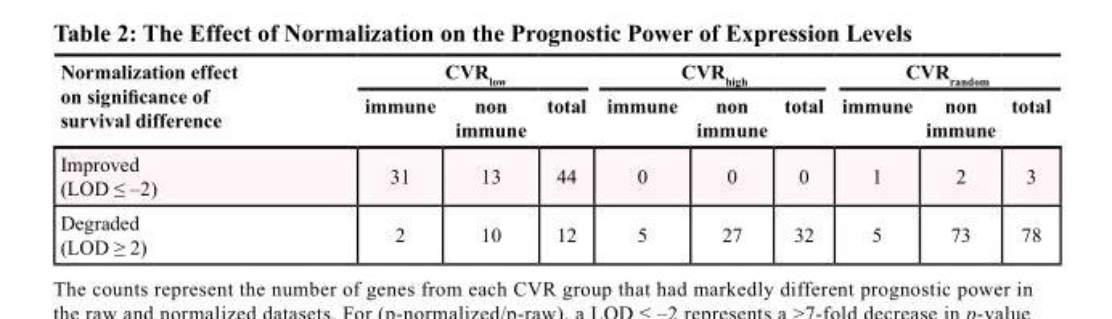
<table><thead><tr><td rowspan="2">Normalization effect on significance of survival difference</td><td colspan="3">CVR<sub>low</sub></td><td colspan="3">CVR<sub>high</sub></td><td colspan="3">CVR<sub>random</sub></td></tr><tr><td>immune</td><td>non immune</td><td>total</td><td>immune</td><td>non immune</td><td>total</td><td>immune</td><td>non immune</td><td>total</td></tr></thead><tbody><tr><td>Improved (LOD ≤ –2)</td><td>31</td><td>13</td><td>44</td><td>0</td><td>0</td><td>0</td><td>1</td><td>2</td><td>3</td></tr><tr><td>Degraded (LOD ≥ 2)</td><td>2</td><td>10</td><td>12</td><td>5</td><td>27</td><td>32</td><td>5</td><td>73</td><td>78</td></tr></tbody></table>